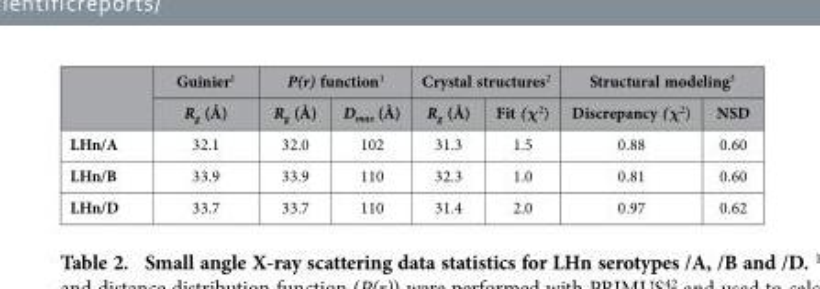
<table><thead><tr><td rowspan="2"></td><td rowspan="2">Guinier<sup>1</sup> R<sub>g</sub> (Å)</td><td colspan="2">P(r) function<sup>1</sup></td><td colspan="2">Crystal structures<sup>2</sup></td><td colspan="2">Structural modeling<sup>3</sup></td></tr><tr><td>R<sub>g</sub> (Å)</td><td>D<sub>max</sub> (Å)</td><td>R<sub>g</sub> (Å)</td><td>Fit (χ<sup>2</sup>)</td><td>Discrepancy (χ<sup>2</sup>)</td><td>NSD</td></tr></thead><tbody><tr><td>LHn/A</td><td>32.1</td><td>32.0</td><td>102</td><td>31.3</td><td>1.5</td><td>0.88</td><td>0.60</td></tr><tr><td>LHn/B</td><td>33.9</td><td>33.9</td><td>110</td><td>32.3</td><td>1.0</td><td>0.81</td><td>0.60</td></tr><tr><td>LHn/D</td><td>33.7</td><td>33.7</td><td>110</td><td>31.4</td><td>2.0</td><td>0.97</td><td>0.62</td></tr></tbody></table>